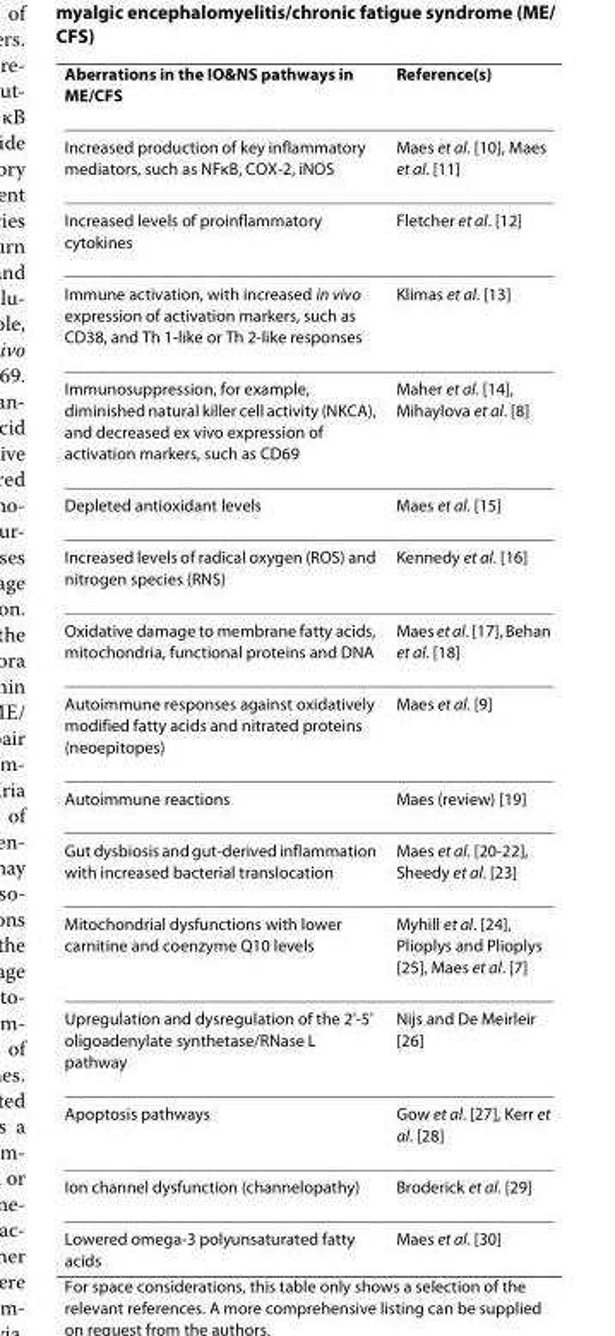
<table><thead><tr><td>Aberrations in the IO&amp;NS pathways in ME/CFS</td><td>Reference(s)</td></tr></thead><tbody><tr><td>Increased production of key inflammatory mediators, such as NFκB, COX-2, iNOS</td><td>Maes et al. [10], Maes et al. [11]</td></tr><tr><td>Increased levels of proinflammatory cytokines</td><td>Fletcher et al. [12]</td></tr><tr><td>Immune activation, with increased in vivo expression of activation markers, such as CD38, and Th 1-like or Th 2-like responses</td><td>Klimas et al. [13]</td></tr><tr><td>Immunosuppression, for example, diminished natural killer cell activity (NKCA), and decreased ex vivo expression of activation markers, such as CD69</td><td>Maher et al. [14], Mihaylova et al. [8]</td></tr><tr><td>Depleted antioxidant levels</td><td>Maes et al. [15]</td></tr><tr><td>Increased levels of radical oxygen (ROS) and nitrogen species (RNS)</td><td>Kennedy et al. [16]</td></tr><tr><td>Oxidative damage to membrane fatty acids, mitochondria, functional proteins and DNA</td><td>Maes et al. [17], Behan et al. [18]</td></tr><tr><td>Autoimmune responses against oxidatively modified fatty acids and nitrated proteins (neoepitopes)</td><td>Maes et al. [9]</td></tr><tr><td>Autoimmune reactions</td><td>Maes (review) [19]</td></tr><tr><td>Gut dysbiosis and gut-derived inflammation with increased bacterial translocation</td><td>Maes et al. [20-22], Sheedy et al. [23]</td></tr><tr><td>Mitochondrial dysfunctions with lower carnitine and coenzyme Q10 levels</td><td>Myhill et al. [24], Plioplys and Plioplys [25], Maes et al. [7]</td></tr><tr><td>Upregulation and dysregulation of the 2&#x27;-5&#x27; oligoadenylate synthetase/RNase L pathway</td><td>Nijs and De Meirleir [26]</td></tr><tr><td>Apoptosis pathways</td><td>Gow et al. [27], Kerr et al. [28]</td></tr><tr><td>Ion channel dysfunction (channelopathy)</td><td>Broderick et al. [29]</td></tr><tr><td>Lowered omega-3 polyunsaturated fatty acids</td><td>Maes et al. [30]</td></tr></tbody></table>